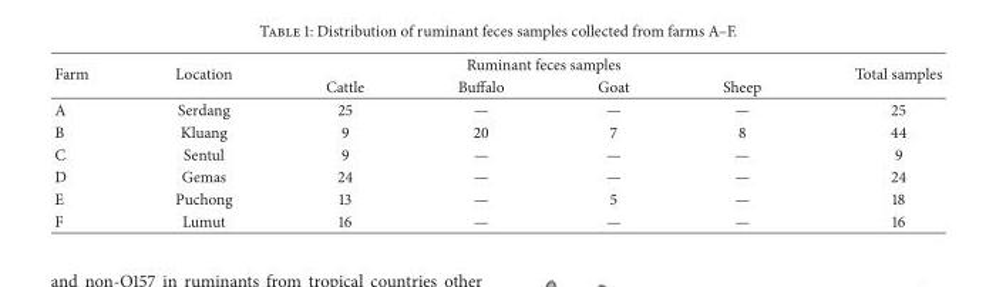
<table><thead><tr><td rowspan="2">Farm</td><td rowspan="2">Location</td><td colspan="4">Ruminant feces samples</td><td rowspan="2">Total samples</td></tr><tr><td>Cattle</td><td>Buffalo</td><td>Goat</td><td>Sheep</td></tr></thead><tbody><tr><td>A</td><td>Serdang</td><td>25</td><td>—</td><td>—</td><td>—</td><td>25</td></tr><tr><td>B</td><td>Kluang</td><td>9</td><td>20</td><td>7</td><td>8</td><td>44</td></tr><tr><td>C</td><td>Sentul</td><td>9</td><td>—</td><td>—</td><td>—</td><td>9</td></tr><tr><td>D</td><td>Gemas</td><td>24</td><td>—</td><td>—</td><td>—</td><td>24</td></tr><tr><td>E</td><td>Puchong</td><td>13</td><td>—</td><td>5</td><td>—</td><td>18</td></tr><tr><td>F</td><td>Lumut</td><td>16</td><td>—</td><td>—</td><td>—</td><td>16</td></tr></tbody></table>